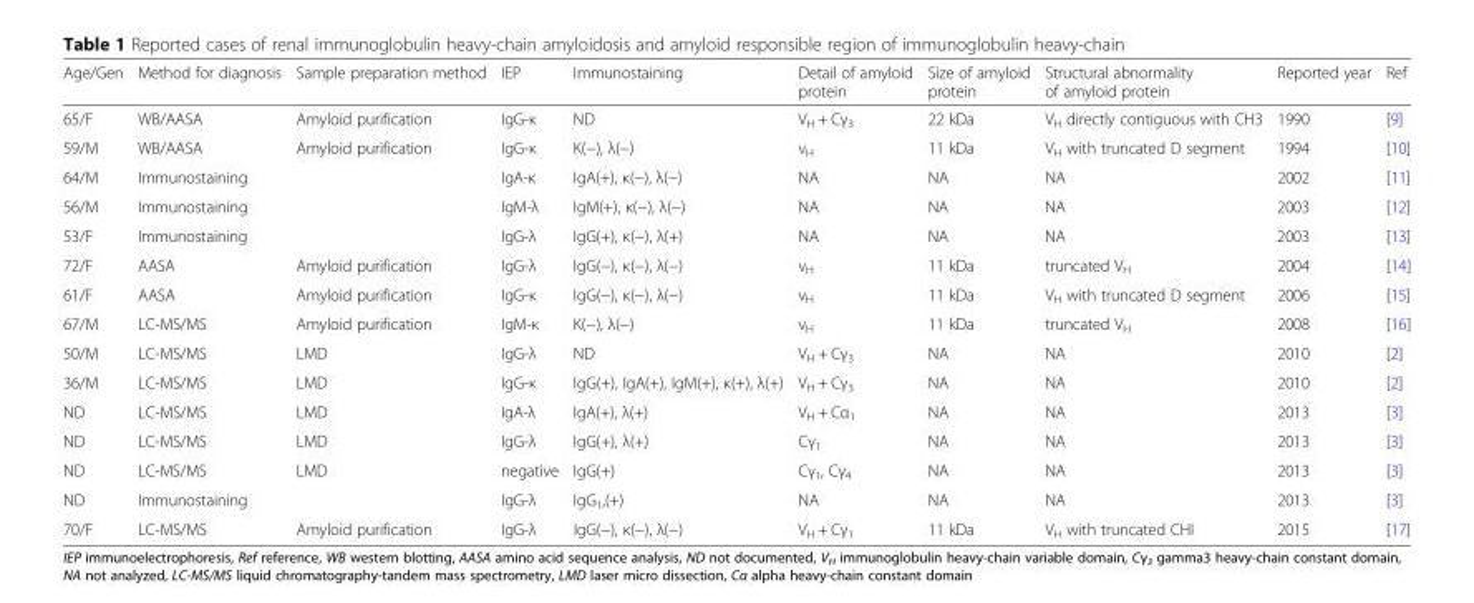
<table><thead><tr><td>Age/Gen</td><td>Method for diagnosis</td><td>Sample preparation method</td><td>IEP</td><td>Immunostaining</td><td>Detail of amyloid protein</td><td>Size of amyloid protein</td><td>Structural abnormality of amyloid protein</td><td>Reported year</td><td>Ref</td></tr></thead><tbody><tr><td>65/F</td><td>WB/AASA</td><td>Amyloid purification</td><td>IgG-κ</td><td>ND</td><td>V<sub>H</sub> + Cγ<sub>3</sub></td><td>22 kDa</td><td>V<sub>H</sub> directly contiguous with CH3</td><td>1990</td><td>[9]</td></tr><tr><td>59/M</td><td>WB/AASA</td><td>Amyloid purification</td><td>IgG-κ</td><td>K(−), λ(−)</td><td>v<sub>H</sub></td><td>11 kDa</td><td>V<sub>H</sub> with truncated D segment</td><td>1994</td><td>[10]</td></tr><tr><td>64/M</td><td>Immunostaining</td><td></td><td>IgA-κ</td><td>IgA(+), κ(−), λ(−)</td><td>NA</td><td>NA</td><td>NA</td><td>2002</td><td>[11]</td></tr><tr><td>56/M</td><td>Immunostaining</td><td></td><td>IgM-λ</td><td>IgM(+), κ(−), λ(−)</td><td>NA</td><td>NA</td><td>NA</td><td>2003</td><td>[12]</td></tr><tr><td>53/F</td><td>Immunostaining</td><td></td><td>IgG-λ</td><td>IgG(+), κ(−), λ(+)</td><td>NA</td><td>NA</td><td>NA</td><td>2003</td><td>[13]</td></tr><tr><td>72/F</td><td>AASA</td><td>Amyloid purification</td><td>IgG-λ</td><td>IgG(−), κ(−), λ(−)</td><td>v<sub>H</sub></td><td>11 kDa</td><td>truncated V<sub>H</sub></td><td>2004</td><td>[14]</td></tr><tr><td>61/F</td><td>AASA</td><td>Amyloid purification</td><td>IgG-κ</td><td>IgG(−), κ(−), λ(−)</td><td>v<sub>H</sub></td><td>11 kDa</td><td>V<sub>H</sub> with truncated D segment</td><td>2006</td><td>[15]</td></tr><tr><td>67/M</td><td>LC-MS/MS</td><td>Amyloid purification</td><td>IgM-κ</td><td>K(−), λ(−)</td><td>v<sub>H</sub></td><td>11 kDa</td><td>truncated V<sub>H</sub></td><td>2008</td><td>[16]</td></tr><tr><td>50/M</td><td>LC-MS/MS</td><td>LMD</td><td>IgG-λ</td><td>ND</td><td>V<sub>H</sub> + Cγ<sub>3</sub></td><td>NA</td><td>NA</td><td>2010</td><td>[2]</td></tr><tr><td>36/M</td><td>LC-MS/MS</td><td>LMD</td><td>IgG-κ</td><td>IgG(+), IgA(+), IgM(+), κ(+), λ(+)</td><td>V<sub>H</sub> + Cγ<sub>3</sub></td><td>NA</td><td>NA</td><td>2010</td><td>[2]</td></tr><tr><td>ND</td><td>LC-MS/MS</td><td>LMD</td><td>IgA-λ</td><td>IgA(+), λ(+)</td><td>V<sub>H</sub> + Cα<sub>1</sub></td><td>NA</td><td>NA</td><td>2013</td><td>[3]</td></tr><tr><td>ND</td><td>LC-MS/MS</td><td>LMD</td><td>IgG-λ</td><td>IgG(+), λ(+)</td><td>Cγ<sub>1</sub></td><td>NA</td><td>NA</td><td>2013</td><td>[3]</td></tr><tr><td>ND</td><td>LC-MS/MS</td><td>LMD</td><td>negative</td><td>IgG(+)</td><td>Cγ<sub>1</sub>, Cγ<sub>4</sub></td><td>NA</td><td>NA</td><td>2013</td><td>[3]</td></tr><tr><td>ND</td><td>Immunostaining</td><td></td><td>IgG-λ</td><td>IgG<sub>1</sub>,(+)</td><td>NA</td><td>NA</td><td>NA</td><td>2013</td><td>[3]</td></tr><tr><td>70/F</td><td>LC-MS/MS</td><td>Amyloid purification</td><td>IgG-λ</td><td>IgG(−), κ(−), λ(−)</td><td>V<sub>H</sub> + Cγ<sub>1</sub></td><td>11 kDa</td><td>V<sub>H</sub> with truncated CHI</td><td>2015</td><td>[17]</td></tr></tbody></table>